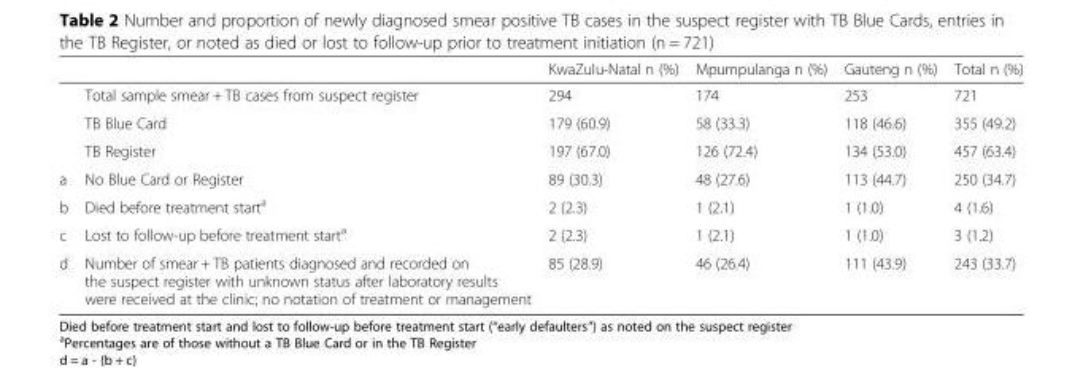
<table><thead><tr><td></td><td></td><td>KwaZulu-Natal n (%)</td><td>Mpumpulanga n (%)</td><td>Gauteng n (%)</td><td>Total n (%)</td></tr></thead><tbody><tr><td></td><td>Total sample smear + TB cases from suspect register</td><td>294</td><td>174</td><td>253</td><td>721</td></tr><tr><td></td><td>TB Blue Card</td><td>179 (60.9)</td><td>58 (33.3)</td><td>118 (46.6)</td><td>355 (49.2)</td></tr><tr><td></td><td>TB Register</td><td>197 (67.0)</td><td>126 (72.4)</td><td>134 (53.0)</td><td>457 (63.4)</td></tr><tr><td>a</td><td>No Blue Card or Register</td><td>89 (30.3)</td><td>48 (27.6)</td><td>113 (44.7)</td><td>250 (34.7)</td></tr><tr><td>b</td><td>Died before treatment start<sup>a</sup></td><td>2 (2.3)</td><td>1 (2.1)</td><td>1 (1.0)</td><td>4 (1.6)</td></tr><tr><td>c</td><td>Lost to follow-up before treatment start<sup>a</sup></td><td>2 (2.3)</td><td>1 (2.1)</td><td>1 (1.0)</td><td>3 (1.2)</td></tr><tr><td>d</td><td>Number of smear + TB patients diagnosed and recorded on the suspect register with unknown status after laboratory results were received at the clinic; no notation of treatment or management</td><td>85 (28.9)</td><td>46 (26.4)</td><td>111 (43.9)</td><td>243 (33.7)</td></tr></tbody></table>